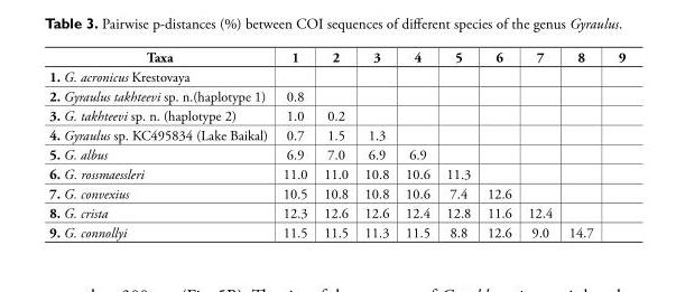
<table><thead><tr><td>Taxa</td><td>1</td><td>2</td><td>3</td><td>4</td><td>5</td><td>6</td><td>7</td><td>8</td><td>9</td></tr></thead><tbody><tr><td colspan="10">1. G. acronicus Krestovaya</td></tr><tr><td>2. Gyraulus takhteevi sp. n.(haplotype 1)</td><td>0.8</td><td></td><td></td><td></td><td></td><td></td><td></td><td></td><td></td></tr><tr><td>3. G. takhteevi sp. n. (haplotype 2)</td><td>1.0</td><td>0.2</td><td></td><td></td><td></td><td></td><td></td><td></td><td></td></tr><tr><td>4. Gyraulus sp. KC495834 (Lake Baikal)</td><td>0.7</td><td>1.5</td><td>1.3</td><td></td><td></td><td></td><td></td><td></td><td></td></tr><tr><td>5. G. albus</td><td>6.9</td><td>7.0</td><td>6.9</td><td>6.9</td><td></td><td></td><td></td><td></td><td></td></tr><tr><td>6. G. rossmaessleri</td><td>11.0</td><td>11.0</td><td>10.8</td><td>10.6</td><td>11.3</td><td></td><td></td><td></td><td></td></tr><tr><td>7. G. convexius</td><td>10.5</td><td>10.8</td><td>10.8</td><td>10.6</td><td>7.4</td><td>12.6</td><td></td><td></td><td></td></tr><tr><td>8. G. crista</td><td>12.3</td><td>12.6</td><td>12.6</td><td>12.4</td><td>12.8</td><td>11.6</td><td>12.4</td><td></td><td></td></tr><tr><td>9. G. connollyi</td><td>11.5</td><td>11.5</td><td>11.3</td><td>11.5</td><td>8.8</td><td>12.6</td><td>9.0</td><td>14.7</td><td></td></tr></tbody></table>